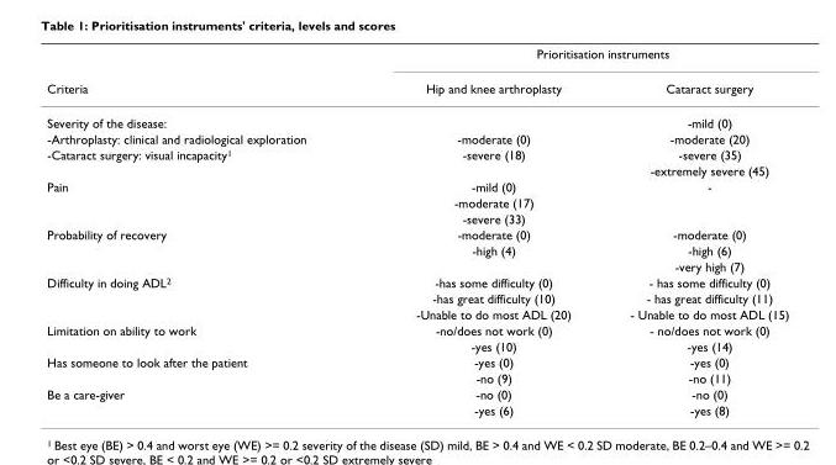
<table><thead><tr><td rowspan="2">Criteria</td><td colspan="2">Prioritisation instruments</td></tr><tr><td>Hip and knee arthroplasty</td><td>Cataract surgery</td></tr></thead><tbody><tr><td>Severity of the disease:</td><td></td><td>-mild (0)</td></tr><tr><td>-Arthroplasty: clinical and radiological exploration</td><td>-moderate (0)</td><td>-moderate (20)</td></tr><tr><td rowspan="2">-Cataract surgery: visual incapacity<sup>1</sup></td><td>-severe (18)</td><td>-severe (35)</td></tr><tr><td></td><td>-extremely severe (45)</td></tr><tr><td rowspan="3">Pain</td><td>-mild (0)</td><td>-</td></tr><tr><td>-moderate (17)</td><td></td></tr><tr><td>-severe (33)</td><td></td></tr><tr><td rowspan="3">Probability of recovery</td><td>-moderate (0)</td><td>-moderate (0)</td></tr><tr><td>-high (4)</td><td>-high (6)</td></tr><tr><td></td><td>-very high (7)</td></tr><tr><td rowspan="3">Difficulty in doing ADL<sup>2</sup></td><td>-has some difficulty (0)</td><td>- has some difficulty (0)</td></tr><tr><td>-has great difficulty (10)</td><td>- has great difficulty (11)</td></tr><tr><td>-Unable to do most ADL (20)</td><td>- Unable to do most ADL (15)</td></tr><tr><td rowspan="2">Limitation on ability to work</td><td>-no/does not work (0)</td><td>- no/does not work (0)</td></tr><tr><td>-yes (10)</td><td>-yes (14)</td></tr><tr><td rowspan="2">Has someone to look after the patient</td><td>-yes (0)</td><td>-yes (0)</td></tr><tr><td>-no (9)</td><td>-no (11)</td></tr><tr><td rowspan="2">Be a care-giver</td><td>-no (0)</td><td>-no (0)</td></tr><tr><td>-yes (6)</td><td>-yes (8)</td></tr></tbody></table>